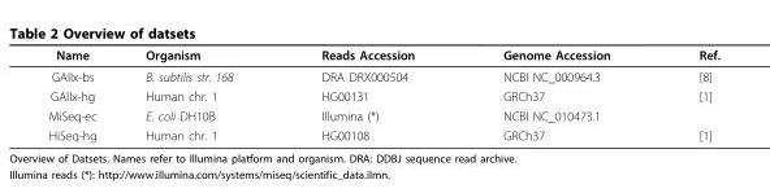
<table><thead><tr><td>Name</td><td>Organism</td><td>Reads Accession</td><td>Genome Accession</td><td>Ref.</td></tr></thead><tbody><tr><td>GAIIx-bs</td><td>B. subtilis str. 168</td><td>DRA DRX000504</td><td>NCBI NC_000964.3</td><td>[8]</td></tr><tr><td>GAIIx-hg</td><td>Human chr. 1</td><td>HG00131</td><td>GRCh37</td><td>[1]</td></tr><tr><td>MiSeq-ec</td><td>E. coli DH10B</td><td>Illumina (*)</td><td>NCBI NC_010473.1</td><td></td></tr><tr><td>HiSeq-hg</td><td>Human chr. 1</td><td>HG00108</td><td>GRCh37</td><td>[1]</td></tr></tbody></table>